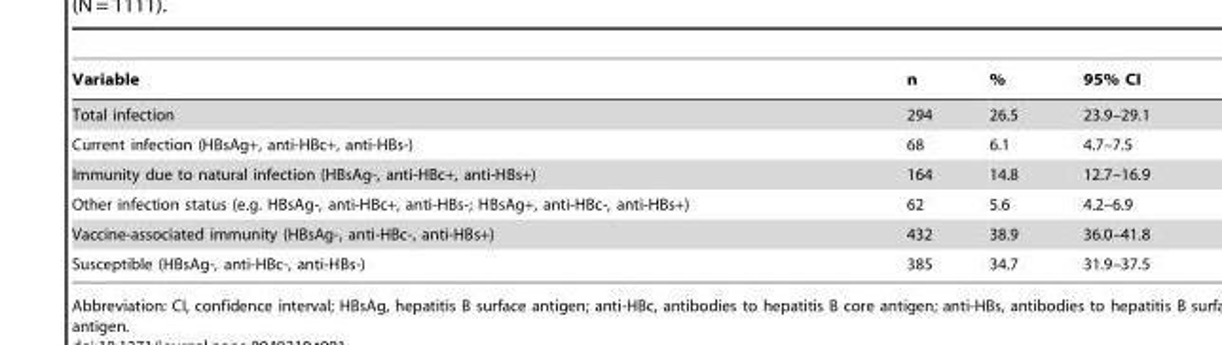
<table><thead><tr><td>Variable</td><td>n</td><td>%</td><td>95% CI</td></tr></thead><tbody><tr><td>Total infection</td><td>294</td><td>26.5</td><td>23.9–29.1</td></tr><tr><td>Current infection (HBsAg+, anti-HBc+, anti-HBs-)</td><td>68</td><td>6.1</td><td>4.7–7.5</td></tr><tr><td>Immunity due to natural infection (HBsAg-, anti-HBc+, anti-HBs+)</td><td>164</td><td>14.8</td><td>12.7–16.9</td></tr><tr><td>Other infection status (e.g. HBsAg-, anti-HBc+, anti-HBs-; HBsAg+, anti-HBc-, anti-HBs+)</td><td>62</td><td>5.6</td><td>4.2–6.9</td></tr><tr><td>Vaccine-associated immunity (HBsAg-, anti-HBc-, anti-HBs+)</td><td>432</td><td>38.9</td><td>36.0–41.8</td></tr><tr><td>Susceptible (HBsAg-, anti-HBc-, anti-HBs-)</td><td>385</td><td>34.7</td><td>31.9–37.5</td></tr></tbody></table>